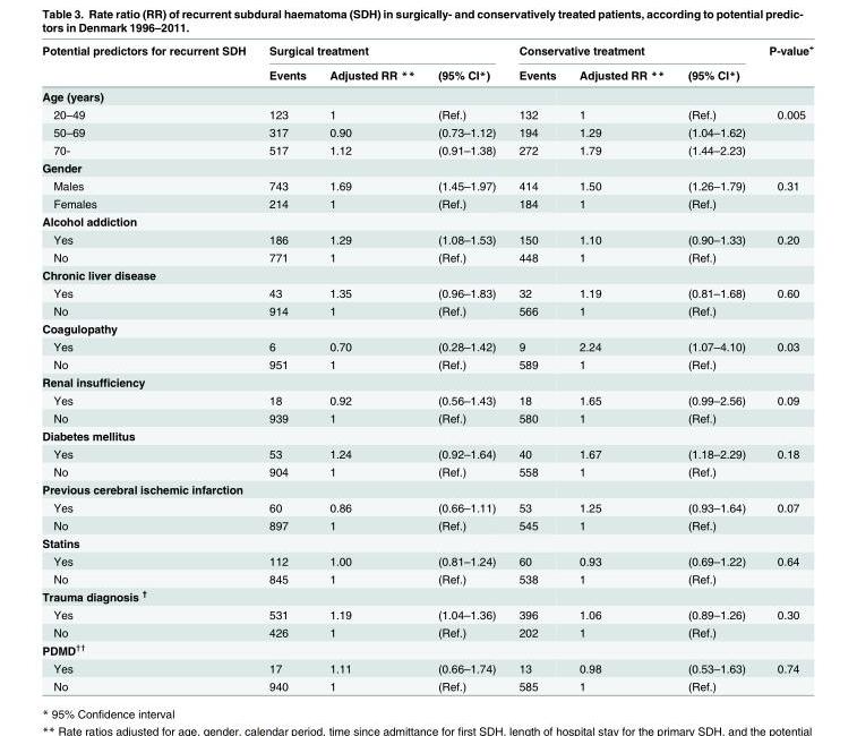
<table><thead><tr><td rowspan="2">Potential predictors for recurrent SDH</td><td colspan="3">Surgical treatment</td><td colspan="3">Conservative treatment</td><td rowspan="2">P-value<sup>+</sup></td></tr><tr><td>Events</td><td>Adjusted RR **</td><td>(95% CI*)</td><td>Events</td><td>Adjusted RR **</td><td>(95% CI*)</td></tr></thead><tbody><tr><td colspan="8">Age (years)</td></tr><tr><td>20–49</td><td>123</td><td>1</td><td>(Ref.)</td><td>132</td><td>1</td><td>(Ref.)</td><td>0.005</td></tr><tr><td>50–69</td><td>317</td><td>0.90</td><td>(0.73–1.12)</td><td>194</td><td>1.29</td><td>(1.04–1.62)</td><td></td></tr><tr><td>70-</td><td>517</td><td>1.12</td><td>(0.91–1.38)</td><td>272</td><td>1.79</td><td>(1.44–2.23)</td><td></td></tr><tr><td colspan="8">Gender</td></tr><tr><td>Males</td><td>743</td><td>1.69</td><td>(1.45–1.97)</td><td>414</td><td>1.50</td><td>(1.26–1.79)</td><td>0.31</td></tr><tr><td>Females</td><td>214</td><td>1</td><td>(Ref.)</td><td>184</td><td>1</td><td>(Ref.)</td><td></td></tr><tr><td colspan="8">Alcohol addiction</td></tr><tr><td>Yes</td><td>186</td><td>1.29</td><td>(1.08–1.53)</td><td>150</td><td>1.10</td><td>(0.90–1.33)</td><td>0.20</td></tr><tr><td>No</td><td>771</td><td>1</td><td>(Ref.)</td><td>448</td><td>1</td><td>(Ref.)</td><td></td></tr><tr><td colspan="8">Chronic liver disease</td></tr><tr><td>Yes</td><td>43</td><td>1.35</td><td>(0.96–1.83)</td><td>32</td><td>1.19</td><td>(0.81–1.68)</td><td>0.60</td></tr><tr><td>No</td><td>914</td><td>1</td><td>(Ref.)</td><td>566</td><td>1</td><td>(Ref.)</td><td></td></tr><tr><td colspan="8">Coagulopathy</td></tr><tr><td>Yes</td><td>6</td><td>0.70</td><td>(0.28–1.42)</td><td>9</td><td>2.24</td><td>(1.07–4.10)</td><td>0.03</td></tr><tr><td>No</td><td>951</td><td>1</td><td>(Ref.)</td><td>589</td><td>1</td><td>(Ref.)</td><td></td></tr><tr><td colspan="8">Renal insufficiency</td></tr><tr><td>Yes</td><td>18</td><td>0.92</td><td>(0.56–1.43)</td><td>18</td><td>1.65</td><td>(0.99–2.56)</td><td>0.09</td></tr><tr><td>No</td><td>939</td><td>1</td><td>(Ref.)</td><td>580</td><td>1</td><td>(Ref.)</td><td></td></tr><tr><td colspan="8">Diabetes mellitus</td></tr><tr><td>Yes</td><td>53</td><td>1.24</td><td>(0.92–1.64)</td><td>40</td><td>1.67</td><td>(1.18–2.29)</td><td>0.18</td></tr><tr><td>No</td><td>904</td><td>1</td><td>(Ref.)</td><td>558</td><td>1</td><td>(Ref.)</td><td></td></tr><tr><td colspan="8">Previous cerebral ischemic infarction</td></tr><tr><td>Yes</td><td>60</td><td>0.86</td><td>(0.66–1.11)</td><td>53</td><td>1.25</td><td>(0.93–1.64)</td><td>0.07</td></tr><tr><td>No</td><td>897</td><td>1</td><td>(Ref.)</td><td>545</td><td>1</td><td>(Ref.)</td><td></td></tr><tr><td colspan="8">Statins</td></tr><tr><td>Yes</td><td>112</td><td>1.00</td><td>(0.81–1.24)</td><td>60</td><td>0.93</td><td>(0.69–1.22)</td><td>0.64</td></tr><tr><td>No</td><td>845</td><td>1</td><td>(Ref.)</td><td>538</td><td>1</td><td>(Ref.)</td><td></td></tr><tr><td colspan="8">Trauma diagnosis <sup>†</sup></td></tr><tr><td>Yes</td><td>531</td><td>1.19</td><td>(1.04–1.36)</td><td>396</td><td>1.06</td><td>(0.89–1.26)</td><td>0.30</td></tr><tr><td>No</td><td>426</td><td>1</td><td>(Ref.)</td><td>202</td><td>1</td><td>(Ref.)</td><td></td></tr><tr><td colspan="8">PDMD<sup>††</sup></td></tr><tr><td>Yes</td><td>17</td><td>1.11</td><td>(0.66–1.74)</td><td>13</td><td>0.98</td><td>(0.53–1.63)</td><td>0.74</td></tr><tr><td>No</td><td>940</td><td>1</td><td>(Ref.)</td><td>585</td><td>1</td><td>(Ref.)</td><td></td></tr></tbody></table>